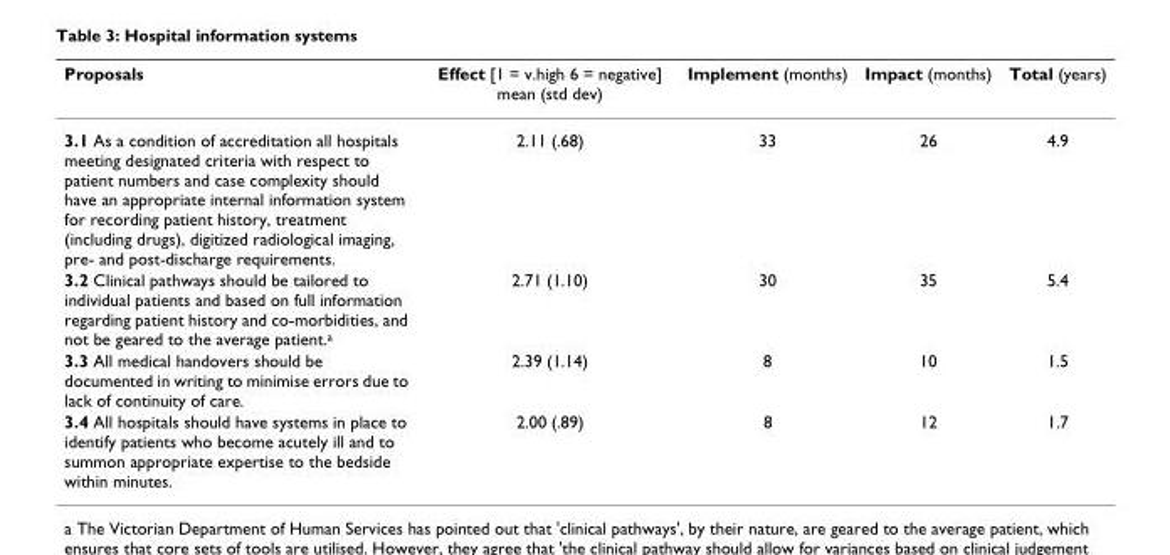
<table><thead><tr><td>Proposals</td><td>Effect [1 = v.high 6 = negative] mean (std dev)</td><td>Implement (months)</td><td>Impact (months)</td><td>Total (years)</td></tr></thead><tbody><tr><td>3.1 As a condition of accreditation all hospitals meeting designated criteria with respect to patient numbers and case complexity should have an appropriate internal information system for recording patient history, treatment (including drugs), digitized radiological imaging, pre- and post-discharge requirements.</td><td>2.11 (.68)</td><td>33</td><td>26</td><td>4.9</td></tr><tr><td>3.2 Clinical pathways should be tailored to individual patients and based on full information regarding patient history and co-morbidities, and not be geared to the average patient.<sup>a</sup></td><td>2.71 (1.10)</td><td>30</td><td>35</td><td>5.4</td></tr><tr><td>3.3 All medical handovers should be documented in writing to minimise errors due to lack of continuity of care.</td><td>2.39 (1.14)</td><td>8</td><td>10</td><td>1.5</td></tr><tr><td>3.4 All hospitals should have systems in place to identify patients who become acutely ill and to summon appropriate expertise to the bedside within minutes.</td><td>2.00 (.89)</td><td>8</td><td>12</td><td>1.7</td></tr></tbody></table>